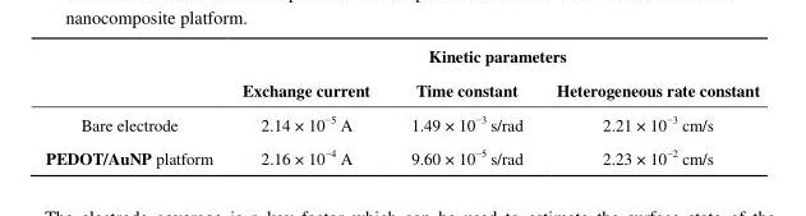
<table><thead><tr><td rowspan="2"></td><td colspan="3">Kinetic parameters</td></tr><tr><td>Exchange current</td><td>Time constant</td><td>Heterogeneous rate constant</td></tr></thead><tbody><tr><td>Bare electrode</td><td>2.14 × 10<sup>−5</sup> A</td><td>1.49 × 10<sup>−3</sup> s/rad</td><td>2.21 × 10<sup>−3</sup> cm/s</td></tr><tr><td>PEDOT/AuNP platform</td><td>2.16 × 10<sup>−4</sup> A</td><td>9.60 × 10<sup>−5</sup> s/rad</td><td>2.23 × 10<sup>−2</sup> cm/s</td></tr></tbody></table>